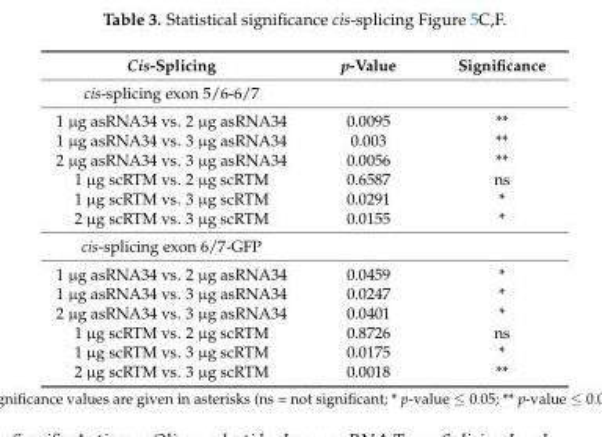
<table><thead><tr><td>Cis-Splicing</td><td>p-Value</td><td>Significance</td></tr></thead><tbody><tr><td colspan="3">cis-splicing exon 5/6-6/7</td></tr><tr><td>1 µg asRNA34 vs. 2 µg asRNA34</td><td>0.0095</td><td>**</td></tr><tr><td>1 µg asRNA34 vs. 3 µg asRNA34</td><td>0.003</td><td>**</td></tr><tr><td>2 µg asRNA34 vs. 3 µg asRNA34</td><td>0.0056</td><td>**</td></tr><tr><td>1 µg scRTM vs. 2 µg scRTM</td><td>0.6587</td><td>ns</td></tr><tr><td>1 µg scRTM vs. 3 µg scRTM</td><td>0.0291</td><td>*</td></tr><tr><td>2 µg scRTM vs. 3 µg scRTM</td><td>0.0155</td><td>*</td></tr><tr><td colspan="3">cis-splicing exon 6/7-GFP</td></tr><tr><td>1 µg asRNA34 vs. 2 µg asRNA34</td><td>0.0459</td><td>*</td></tr><tr><td>1 µg asRNA34 vs. 3 µg asRNA34</td><td>0.0247</td><td>*</td></tr><tr><td>2 µg asRNA34 vs. 3 µg asRNA34</td><td>0.0401</td><td>*</td></tr><tr><td>1 µg scRTM vs. 2 µg scRTM</td><td>0.8726</td><td>ns</td></tr><tr><td>1 µg scRTM vs. 3 µg scRTM</td><td>0.0175</td><td>*</td></tr><tr><td>2 µg scRTM vs. 3 µg scRTM</td><td>0.0018</td><td>**</td></tr></tbody></table>